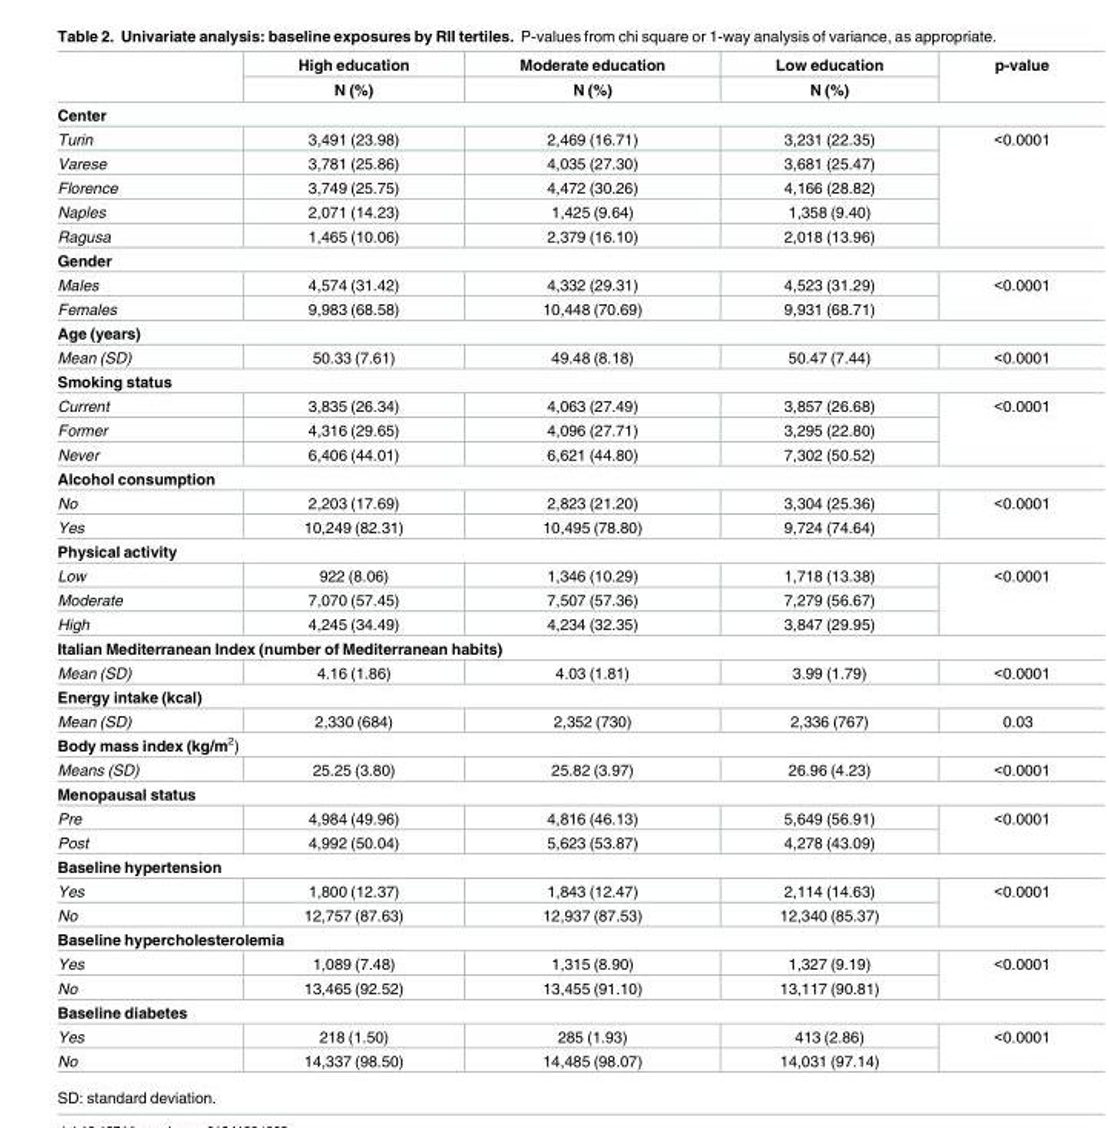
<table><thead><tr><td rowspan="2"></td><td rowspan="2">High education N (%)</td><td rowspan="2">Moderate education N (%)</td><td rowspan="2">Low education N (%)</td><td rowspan="2">p-value</td></tr><tr></tr></thead><tbody><tr><td colspan="5">Center</td></tr><tr><td>Turin</td><td>3,491 (23.98)</td><td>2,469 (16.71)</td><td>3,231 (22.35)</td><td rowspan="5">&lt;0.0001</td></tr><tr><td>Varese</td><td>3,781 (25.86)</td><td>4,035 (27.30)</td><td>3,681 (25.47)</td></tr><tr><td>Florence</td><td>3,749 (25.75)</td><td>4,472 (30.26)</td><td>4,166 (28.82)</td></tr><tr><td>Naples</td><td>2,071 (14.23)</td><td>1,425 (9.64)</td><td>1,358 (9.40)</td></tr><tr><td>Ragusa</td><td>1,465 (10.06)</td><td>2,379 (16.10)</td><td>2,018 (13.96)</td></tr><tr><td colspan="5">Gender</td></tr><tr><td>Males</td><td>4,574 (31.42)</td><td>4,332 (29.31)</td><td>4,523 (31.29)</td><td rowspan="2">&lt;0.0001</td></tr><tr><td>Females</td><td>9,983 (68.58)</td><td>10,448 (70.69)</td><td>9,931 (68.71)</td></tr><tr><td colspan="5">Age (years)</td></tr><tr><td>Mean (SD)</td><td>50.33 (7.61)</td><td>49.48 (8.18)</td><td>50.47 (7.44)</td><td>&lt;0.0001</td></tr><tr><td colspan="5">Smoking status</td></tr><tr><td>Current</td><td>3,835 (26.34)</td><td>4,063 (27.49)</td><td>3,857 (26.68)</td><td rowspan="3">&lt;0.0001</td></tr><tr><td>Former</td><td>4,316 (29.65)</td><td>4,096 (27.71)</td><td>3,295 (22.80)</td></tr><tr><td>Never</td><td>6,406 (44.01)</td><td>6,621 (44.80)</td><td>7,302 (50.52)</td></tr><tr><td colspan="5">Alcohol consumption</td></tr><tr><td>No</td><td>2,203 (17.69)</td><td>2,823 (21.20)</td><td>3,304 (25.36)</td><td rowspan="2">&lt;0.0001</td></tr><tr><td>Yes</td><td>10,249 (82.31)</td><td>10,495 (78.80)</td><td>9,724 (74.64)</td></tr><tr><td colspan="5">Physical activity</td></tr><tr><td>Low</td><td>922 (8.06)</td><td>1,346 (10.29)</td><td>1,718 (13.38)</td><td rowspan="3">&lt;0.0001</td></tr><tr><td>Moderate</td><td>7,070 (57.45)</td><td>7,507 (57.36)</td><td>7,279 (56.67)</td></tr><tr><td>High</td><td>4,245 (34.49)</td><td>4,234 (32.35)</td><td>3,847 (29.95)</td></tr><tr><td colspan="5">Italian Mediterranean Index (number of Mediterranean habits)</td></tr><tr><td>Mean (SD)</td><td>4.16 (1.86)</td><td>4.03 (1.81)</td><td>3.99 (1.79)</td><td>&lt;0.0001</td></tr><tr><td colspan="5">Energy intake (kcal)</td></tr><tr><td>Mean (SD)</td><td>2,330 (684)</td><td>2,352 (730)</td><td>2,336 (767)</td><td>0.03</td></tr><tr><td colspan="5">Body mass index (kg/m<sup>2</sup>)</td></tr><tr><td>Means (SD)</td><td>25.25 (3.80)</td><td>25.82 (3.97)</td><td>26.96 (4.23)</td><td>&lt;0.0001</td></tr><tr><td colspan="5">Menopausal status</td></tr><tr><td>Pre</td><td>4,984 (49.96)</td><td>4,816 (46.13)</td><td>5,649 (56.91)</td><td rowspan="2">&lt;0.0001</td></tr><tr><td>Post</td><td>4,992 (50.04)</td><td>5,623 (53.87)</td><td>4,278 (43.09)</td></tr><tr><td colspan="5">Baseline hypertension</td></tr><tr><td>Yes</td><td>1,800 (12.37)</td><td>1,843 (12.47)</td><td>2,114 (14.63)</td><td rowspan="2">&lt;0.0001</td></tr><tr><td>No</td><td>12,757 (87.63)</td><td>12,937 (87.53)</td><td>12,340 (85.37)</td></tr><tr><td colspan="5">Baseline hypercholesterolemia</td></tr><tr><td>Yes</td><td>1,089 (7.48)</td><td>1,315 (8.90)</td><td>1,327 (9.19)</td><td rowspan="2">&lt;0.0001</td></tr><tr><td>No</td><td>13,465 (92.52)</td><td>13,455 (91.10)</td><td>13,117 (90.81)</td></tr><tr><td colspan="5">Baseline diabetes</td></tr><tr><td>Yes</td><td>218 (1.50)</td><td>285 (1.93)</td><td>413 (2.86)</td><td rowspan="2">&lt;0.0001</td></tr><tr><td>No</td><td>14,337 (98.50)</td><td>14,485 (98.07)</td><td>14,031 (97.14)</td></tr></tbody></table>